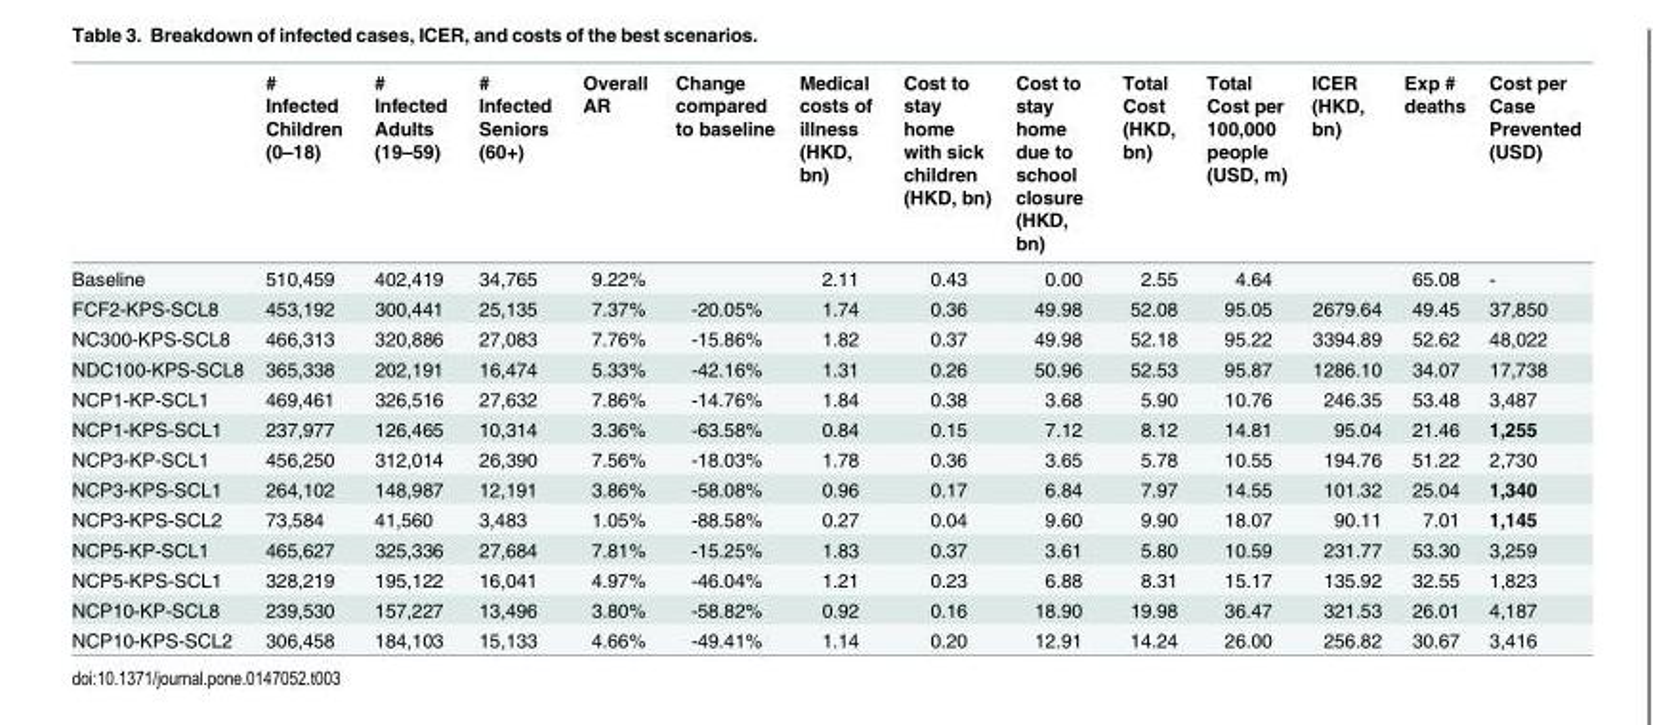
<table><thead><tr><td></td><td># Infected Children (0–18)</td><td># Infected Adults (19–59)</td><td># Infected Seniors (60+)</td><td>Overall AR</td><td>Change compared to baseline</td><td>Medical costs of illness (HKD, bn)</td><td>Cost to stay home with sick children (HKD, bn)</td><td>Cost to stay home due to school closure (HKD, bn)</td><td>Total Cost (HKD, bn)</td><td>Total Cost per 100,000 people (USD, m)</td><td>ICER (HKD, bn)</td><td>Exp # deaths</td><td>Cost per Case Prevented (USD)</td></tr></thead><tbody><tr><td>Baseline</td><td>510,459</td><td>402,419</td><td>34,765</td><td>9.22%</td><td></td><td>2.11</td><td>0.43</td><td>0.00</td><td>2.55</td><td>4.64</td><td></td><td>65.08</td><td>-</td></tr><tr><td>FCF2-KPS-SCL8</td><td>453,192</td><td>300,441</td><td>25,135</td><td>7.37%</td><td>-20.05%</td><td>1.74</td><td>0.36</td><td>49.98</td><td>52.08</td><td>95.05</td><td>2679.64</td><td>49.45</td><td>37,850</td></tr><tr><td>NC300-KPS-SCL8</td><td>466,313</td><td>320,886</td><td>27,083</td><td>7.76%</td><td>-15.86%</td><td>1.82</td><td>0.37</td><td>49.98</td><td>52.18</td><td>95.22</td><td>3394.89</td><td>52.62</td><td>48,022</td></tr><tr><td>NDC100-KPS-SCL8</td><td>365,338</td><td>202,191</td><td>16,474</td><td>5.33%</td><td>-42.16%</td><td>1.31</td><td>0.26</td><td>50.96</td><td>52.53</td><td>95.87</td><td>1286.10</td><td>34.07</td><td>17,738</td></tr><tr><td>NCP1-KP-SCL1</td><td>469,461</td><td>326,516</td><td>27,632</td><td>7.86%</td><td>-14.76%</td><td>1.84</td><td>0.38</td><td>3.68</td><td>5.90</td><td>10.76</td><td>246.35</td><td>53.48</td><td>3,487</td></tr><tr><td>NCP1-KPS-SCL1</td><td>237,977</td><td>126,465</td><td>10,314</td><td>3.36%</td><td>-63.58%</td><td>0.84</td><td>0.15</td><td>7.12</td><td>8.12</td><td>14.81</td><td>95.04</td><td>21.46</td><td>1,255</td></tr><tr><td>NCP3-KP-SCL1</td><td>456,250</td><td>312,014</td><td>26,390</td><td>7.56%</td><td>-18.03%</td><td>1.78</td><td>0.36</td><td>3.65</td><td>5.78</td><td>10.55</td><td>194.76</td><td>51.22</td><td>2,730</td></tr><tr><td>NCP3-KPS-SCL1</td><td>264,102</td><td>148,987</td><td>12,191</td><td>3.86%</td><td>-58.08%</td><td>0.96</td><td>0.17</td><td>6.84</td><td>7.97</td><td>14.55</td><td>101.32</td><td>25.04</td><td>1,340</td></tr><tr><td>NCP3-KPS-SCL2</td><td>73,584</td><td>41,560</td><td>3,483</td><td>1.05%</td><td>-88.58%</td><td>0.27</td><td>0.04</td><td>9.60</td><td>9.90</td><td>18.07</td><td>90.11</td><td>7.01</td><td>1,145</td></tr><tr><td>NCP5-KP-SCL1</td><td>465,627</td><td>325,336</td><td>27,684</td><td>7.81%</td><td>-15.25%</td><td>1.83</td><td>0.37</td><td>3.61</td><td>5.80</td><td>10.59</td><td>231.77</td><td>53.30</td><td>3,259</td></tr><tr><td>NCP5-KPS-SCL1</td><td>328,219</td><td>195,122</td><td>16,041</td><td>4.97%</td><td>-46.04%</td><td>1.21</td><td>0.23</td><td>6.88</td><td>8.31</td><td>15.17</td><td>135.92</td><td>32.55</td><td>1,823</td></tr><tr><td>NCP10-KP-SCL8</td><td>239,530</td><td>157,227</td><td>13,496</td><td>3.80%</td><td>-58.82%</td><td>0.92</td><td>0.16</td><td>18.90</td><td>19.98</td><td>36.47</td><td>321.53</td><td>26.01</td><td>4,187</td></tr><tr><td>NCP10-KPS-SCL2</td><td>306,458</td><td>184,103</td><td>15,133</td><td>4.66%</td><td>-49.41%</td><td>1.14</td><td>0.20</td><td>12.91</td><td>14.24</td><td>26.00</td><td>256.82</td><td>30.67</td><td>3,416</td></tr></tbody></table>